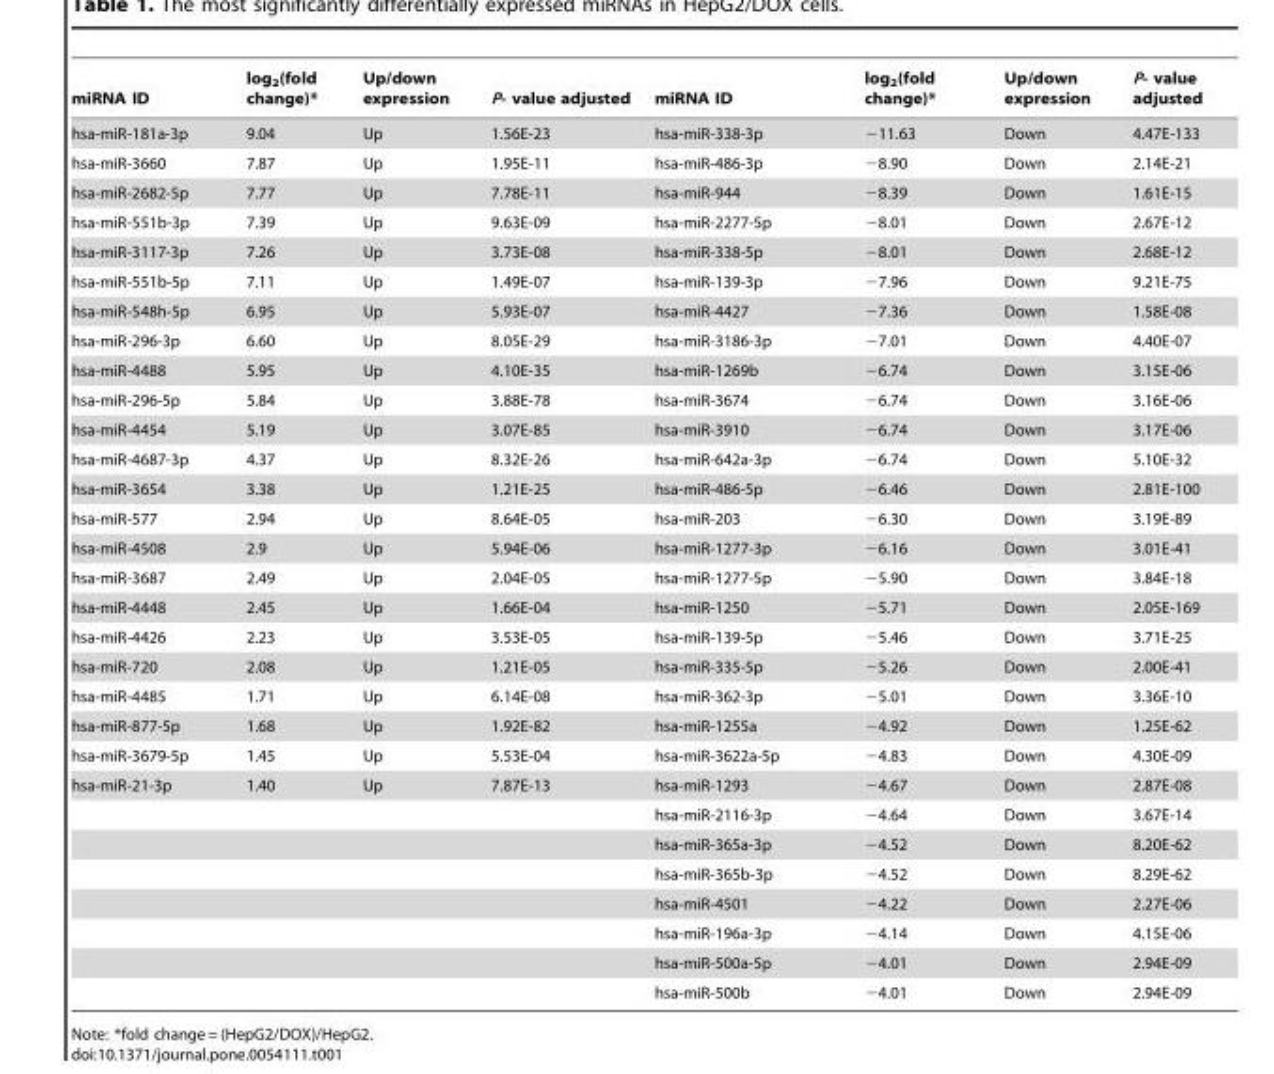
<table><thead><tr><td>miRNA ID</td><td>log<sub>2</sub>(fold change)*</td><td>Up/down expression</td><td>P- value adjusted</td><td>miRNA ID</td><td>log<sub>2</sub>(fold change)*</td><td>Up/down expression</td><td>P- value adjusted</td></tr></thead><tbody><tr><td>hsa-miR-181a-3p</td><td>9.04</td><td>Up</td><td>1.56E-23</td><td>hsa-miR-338-3p</td><td>−11.63</td><td>Down</td><td>4.47E-133</td></tr><tr><td>hsa-miR-3660</td><td>7.87</td><td>Up</td><td>1.95E-11</td><td>hsa-miR-486-3p</td><td>−8.90</td><td>Down</td><td>2.14E-21</td></tr><tr><td>hsa-miR-2682-5p</td><td>7.77</td><td>Up</td><td>7.78E-11</td><td>hsa-miR-944</td><td>−8.39</td><td>Down</td><td>1.61E-15</td></tr><tr><td>hsa-miR-551b-3p</td><td>7.39</td><td>Up</td><td>9.63E-09</td><td>hsa-miR-2277-5p</td><td>−8.01</td><td>Down</td><td>2.67E-12</td></tr><tr><td>hsa-miR-3117-3p</td><td>7.26</td><td>Up</td><td>3.73E-08</td><td>hsa-miR-338-5p</td><td>−8.01</td><td>Down</td><td>2.68E-12</td></tr><tr><td>hsa-miR-551b-5p</td><td>7.11</td><td>Up</td><td>1.49E-07</td><td>hsa-miR-139-3p</td><td>−7.96</td><td>Down</td><td>9.21E-75</td></tr><tr><td>hsa-miR-548h-5p</td><td>6.95</td><td>Up</td><td>5.93E-07</td><td>hsa-miR-4427</td><td>−7.36</td><td>Down</td><td>1.58E-08</td></tr><tr><td>hsa-miR-296-3p</td><td>6.60</td><td>Up</td><td>8.05E-29</td><td>hsa-miR-3186-3p</td><td>−7.01</td><td>Down</td><td>4.40E-07</td></tr><tr><td>hsa-miR-4488</td><td>5.95</td><td>Up</td><td>4.10E-35</td><td>hsa-miR-1269b</td><td>−6.74</td><td>Down</td><td>3.15E-06</td></tr><tr><td>hsa-miR-296-5p</td><td>5.84</td><td>Up</td><td>3.88E-78</td><td>hsa-miR-3674</td><td>−6.74</td><td>Down</td><td>3.16E-06</td></tr><tr><td>hsa-miR-4454</td><td>5.19</td><td>Up</td><td>3.07E-85</td><td>hsa-miR-3910</td><td>−6.74</td><td>Down</td><td>3.17E-06</td></tr><tr><td>hsa-miR-4687-3p</td><td>4.37</td><td>Up</td><td>8.32E-26</td><td>hsa-miR-642a-3p</td><td>−6.74</td><td>Down</td><td>5.10E-32</td></tr><tr><td>hsa-miR-3654</td><td>3.38</td><td>Up</td><td>1.21E-25</td><td>hsa-miR-486-5p</td><td>−6.46</td><td>Down</td><td>2.81E-100</td></tr><tr><td>hsa-miR-577</td><td>2.94</td><td>Up</td><td>8.64E-05</td><td>hsa-miR-203</td><td>−6.30</td><td>Down</td><td>3.19E-89</td></tr><tr><td>hsa-miR-4508</td><td>2.9</td><td>Up</td><td>5.94E-06</td><td>hsa-miR-1277-3p</td><td>−6.16</td><td>Down</td><td>3.01E-41</td></tr><tr><td>hsa-miR-3687</td><td>2.49</td><td>Up</td><td>2.04E-05</td><td>hsa-miR-1277-5p</td><td>−5.90</td><td>Down</td><td>3.84E-18</td></tr><tr><td>hsa-miR-4448</td><td>2.45</td><td>Up</td><td>1.66E-04</td><td>hsa-miR-1250</td><td>−5.71</td><td>Down</td><td>2.05E-169</td></tr><tr><td>hsa-miR-4426</td><td>2.23</td><td>Up</td><td>3.53E-05</td><td>hsa-miR-139-5p</td><td>−5.46</td><td>Down</td><td>3.71E-25</td></tr><tr><td>hsa-miR-720</td><td>2.08</td><td>Up</td><td>1.21E-05</td><td>hsa-miR-335-5p</td><td>−5.26</td><td>Down</td><td>2.00E-41</td></tr><tr><td>hsa-miR-4485</td><td>1.71</td><td>Up</td><td>6.14E-08</td><td>hsa-miR-362-3p</td><td>−5.01</td><td>Down</td><td>3.36E-10</td></tr><tr><td>hsa-miR-877-5p</td><td>1.68</td><td>Up</td><td>1.92E-82</td><td>hsa-miR-1255a</td><td>−4.92</td><td>Down</td><td>1.25E-62</td></tr><tr><td>hsa-miR-3679-5p</td><td>1.45</td><td>Up</td><td>5.53E-04</td><td>hsa-miR-3622a-5p</td><td>−4.83</td><td>Down</td><td>4.30E-09</td></tr><tr><td rowspan="8">hsa-miR-21-3p</td><td>1.40</td><td>Up</td><td>7.87E-13</td><td>hsa-miR-1293</td><td>−4.67</td><td>Down</td><td>2.87E-08</td></tr><tr><td></td><td></td><td></td><td>hsa-miR-2116-3p</td><td>−4.64</td><td>Down</td><td>3.67E-14</td></tr><tr><td></td><td></td><td></td><td>hsa-miR-365a-3p</td><td>−4.52</td><td>Down</td><td>8.20E-62</td></tr><tr><td></td><td></td><td></td><td>hsa-miR-365b-3p</td><td>−4.52</td><td>Down</td><td>8.29E-62</td></tr><tr><td></td><td></td><td></td><td>hsa-miR-4501</td><td>−4.22</td><td>Down</td><td>2.27E-06</td></tr><tr><td></td><td></td><td></td><td>hsa-miR-196a-3p</td><td>−4.14</td><td>Down</td><td>4.15E-06</td></tr><tr><td></td><td></td><td></td><td>hsa-miR-500a-5p</td><td>−4.01</td><td>Down</td><td>2.94E-09</td></tr><tr><td></td><td></td><td></td><td>hsa-miR-500b</td><td>−4.01</td><td>Down</td><td>2.94E-09</td></tr></tbody></table>